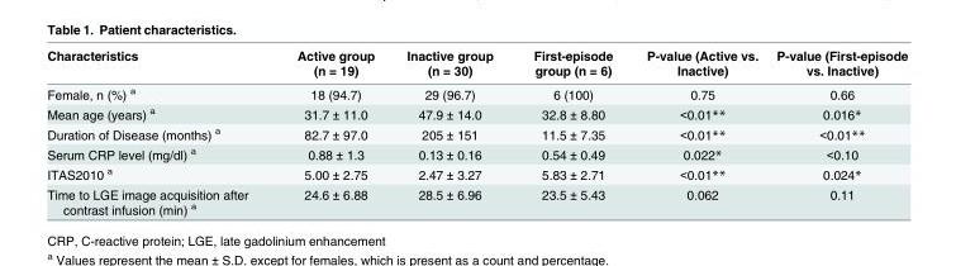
<table><thead><tr><td>Characteristics</td><td>Active group (n = 19)</td><td>Inactive group (n = 30)</td><td>First-episode group (n = 6)</td><td>P-value (Active vs. Inactive)</td><td>P-value (First-episode vs. Inactive)</td></tr></thead><tbody><tr><td>Female, n (%) <sup>a</sup></td><td>18 (94.7)</td><td>29 (96.7)</td><td>6 (100)</td><td>0.75</td><td>0.66</td></tr><tr><td>Mean age (years) <sup>a</sup></td><td>31.7 ± 11.0</td><td>47.9 ± 14.0</td><td>32.8 ± 8.80</td><td>&lt;0.01**</td><td>0.016*</td></tr><tr><td>Duration of Disease (months) <sup>a</sup></td><td>82.7 ± 97.0</td><td>205 ± 151</td><td>11.5 ± 7.35</td><td>&lt;0.01**</td><td>&lt;0.01**</td></tr><tr><td>Serum CRP level (mg/dl) <sup>a</sup></td><td>0.88 ± 1.3</td><td>0.13 ± 0.16</td><td>0.54 ± 0.49</td><td>0.022*</td><td>&lt;0.10</td></tr><tr><td>ITAS2010 <sup>a</sup></td><td>5.00 ± 2.75</td><td>2.47 ± 3.27</td><td>5.83 ± 2.71</td><td>&lt;0.01**</td><td>0.024*</td></tr><tr><td>Time to LGE image acquisition after contrast infusion (min) <sup>a</sup></td><td>24.6 ± 6.88</td><td>28.5 ± 6.96</td><td>23.5 ± 5.43</td><td>0.062</td><td>0.11</td></tr></tbody></table>